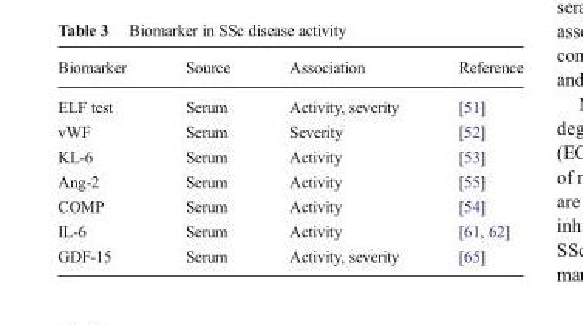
<table><thead><tr><td>Biomarker</td><td>Source</td><td>Association</td><td>Reference</td></tr></thead><tbody><tr><td>ELF test</td><td>Serum</td><td>Activity, severity</td><td>[51]</td></tr><tr><td>vWF</td><td>Serum</td><td>Severity</td><td>[52]</td></tr><tr><td>KL-6</td><td>Serum</td><td>Activity</td><td>[53]</td></tr><tr><td>Ang-2</td><td>Serum</td><td>Activity</td><td>[55]</td></tr><tr><td>COMP</td><td>Serum</td><td>Activity</td><td>[54]</td></tr><tr><td>IL-6</td><td>Serum</td><td>Activity</td><td>[61, 62]</td></tr><tr><td>GDF-15</td><td>Serum</td><td>Activity, severity</td><td>[65]</td></tr></tbody></table>